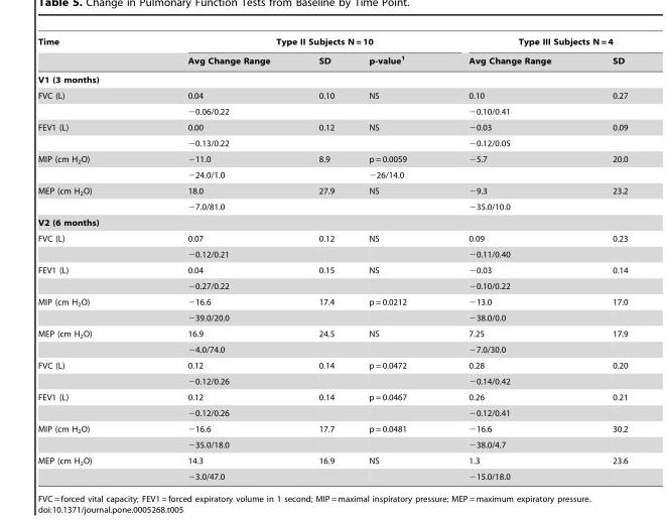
<table><thead><tr><td rowspan="2">Time</td><td colspan="3">Type II Subjects N = 10</td><td colspan="2">Type III Subjects N = 4</td></tr><tr><td>Avg Change Range</td><td>SD</td><td>p-value<sup>1</sup></td><td>Avg Change Range</td><td>SD</td></tr></thead><tbody><tr><td colspan="6">V1 (3 months)</td></tr><tr><td rowspan="2">FVC (L)</td><td>0.04</td><td>0.10</td><td>NS</td><td>0.10</td><td>0.27</td></tr><tr><td>−0.06/0.22</td><td></td><td></td><td>−0.10/0.41</td><td></td></tr><tr><td rowspan="2">FEV1 (L)</td><td>0.00</td><td>0.12</td><td>NS</td><td>−0.03</td><td>0.09</td></tr><tr><td>−0.13/0.22</td><td></td><td></td><td>−0.12/0.05</td><td></td></tr><tr><td rowspan="2">MIP (cm H<sub>2</sub>O)</td><td>−11.0</td><td>8.9</td><td>p = 0.0059</td><td>−5.7</td><td>20.0</td></tr><tr><td>−24.0/1.0</td><td></td><td>−26/14.0</td><td></td><td></td></tr><tr><td rowspan="2">MEP (cm H<sub>2</sub>O)</td><td>18.0</td><td>27.9</td><td>NS</td><td>−9.3</td><td>23.2</td></tr><tr><td>−7.0/81.0</td><td></td><td></td><td>−35.0/10.0</td><td></td></tr><tr><td colspan="6">V2 (6 months)</td></tr><tr><td rowspan="2">FVC (L)</td><td>0.07</td><td>0.12</td><td>NS</td><td>0.09</td><td>0.23</td></tr><tr><td>−0.12/0.21</td><td></td><td></td><td>−0.11/0.40</td><td></td></tr><tr><td rowspan="2">FEV1 (L)</td><td>0.04</td><td>0.15</td><td>NS</td><td>−0.03</td><td>0.14</td></tr><tr><td>−0.27/0.22</td><td></td><td></td><td>−0.10/0.22</td><td></td></tr><tr><td rowspan="2">MIP (cm H<sub>2</sub>O)</td><td>−16.6</td><td>17.4</td><td>p = 0.0212</td><td>−13.0</td><td>17.0</td></tr><tr><td>−39.0/20.0</td><td></td><td></td><td>−38.0/0.0</td><td></td></tr><tr><td rowspan="2">MEP (cm H<sub>2</sub>O)</td><td>16.9</td><td>24.5</td><td>NS</td><td>7.25</td><td>17.9</td></tr><tr><td>−4.0/74.0</td><td></td><td></td><td>−7.0/30.0</td><td></td></tr><tr><td rowspan="2">FVC (L)</td><td>0.12</td><td>0.14</td><td>p = 0.0472</td><td>0.28</td><td>0.20</td></tr><tr><td>−0.12/0.26</td><td></td><td></td><td>−0.14/0.42</td><td></td></tr><tr><td rowspan="2">FEV1 (L)</td><td>0.12</td><td>0.14</td><td>p = 0.0467</td><td>0.26</td><td>0.21</td></tr><tr><td>−0.12/0.26</td><td></td><td></td><td>−0.12/0.41</td><td></td></tr><tr><td rowspan="2">MIP (cm H<sub>2</sub>O)</td><td>−16.6</td><td>17.7</td><td>p = 0.0481</td><td>−16.6</td><td>30.2</td></tr><tr><td>−35.0/18.0</td><td></td><td></td><td>−38.0/4.7</td><td></td></tr><tr><td rowspan="2">MEP (cm H<sub>2</sub>O)</td><td>14.3</td><td>16.9</td><td>NS</td><td>1.3</td><td>23.6</td></tr><tr><td>−3.0/47.0</td><td></td><td></td><td>−15.0/18.0</td><td></td></tr></tbody></table>